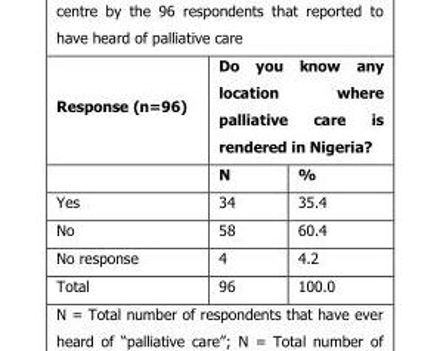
<table><thead><tr><td rowspan="2">Response (n=96)</td><td colspan="2">Do you know any location where palliative care is rendered in Nigeria?</td></tr><tr><td>N</td><td>%</td></tr></thead><tbody><tr><td>Yes</td><td>34</td><td>35.4</td></tr><tr><td>No</td><td>58</td><td>60.4</td></tr><tr><td>No response</td><td>4</td><td>4.2</td></tr><tr><td>Total</td><td>96</td><td>100.0</td></tr></tbody></table>